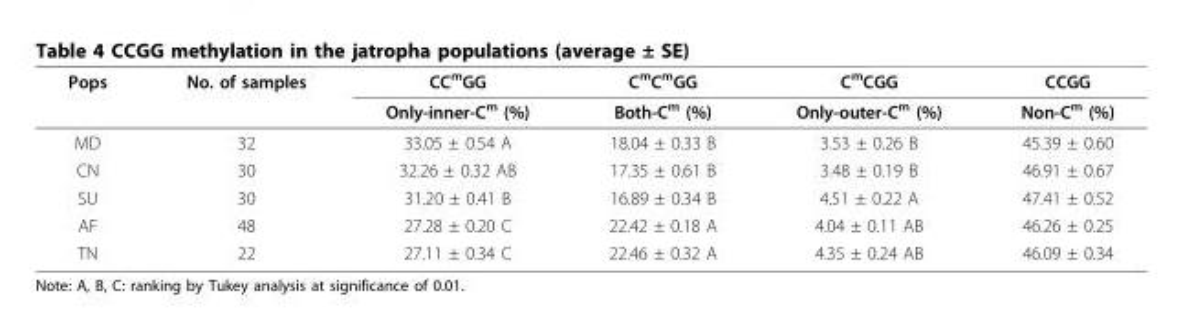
<table><thead><tr><td rowspan="2">Pops</td><td rowspan="2">No. of samples</td><td rowspan="2">CC<sup>m</sup>GG Only-inner-C<sup>m</sup> (%)</td><td rowspan="2">C<sup>m</sup>C<sup>m</sup>GG Both-C<sup>m</sup> (%)</td><td rowspan="2">C<sup>m</sup>CGG Only-outer-C<sup>m</sup> (%)</td><td rowspan="2">CCGG Non-C<sup>m</sup> (%)</td></tr><tr></tr></thead><tbody><tr><td>MD</td><td>32</td><td>33.05 ± 0.54 A</td><td>18.04 ± 0.33 B</td><td>3.53 ± 0.26 B</td><td>45.39 ± 0.60</td></tr><tr><td>CN</td><td>30</td><td>32.26 ± 0.32 AB</td><td>17.35 ± 0.61 B</td><td>3.48 ± 0.19 B</td><td>46.91 ± 0.67</td></tr><tr><td>SU</td><td>30</td><td>31.20 ± 0.41 B</td><td>16.89 ± 0.34 B</td><td>4.51 ± 0.22 A</td><td>47.41 ± 0.52</td></tr><tr><td>AF</td><td>48</td><td>27.28 ± 0.20 C</td><td>22.42 ± 0.18 A</td><td>4.04 ± 0.11 AB</td><td>46.26 ± 0.25</td></tr><tr><td>TN</td><td>22</td><td>27.11 ± 0.34 C</td><td>22.46 ± 0.32 A</td><td>4.35 ± 0.24 AB</td><td>46.09 ± 0.34</td></tr></tbody></table>